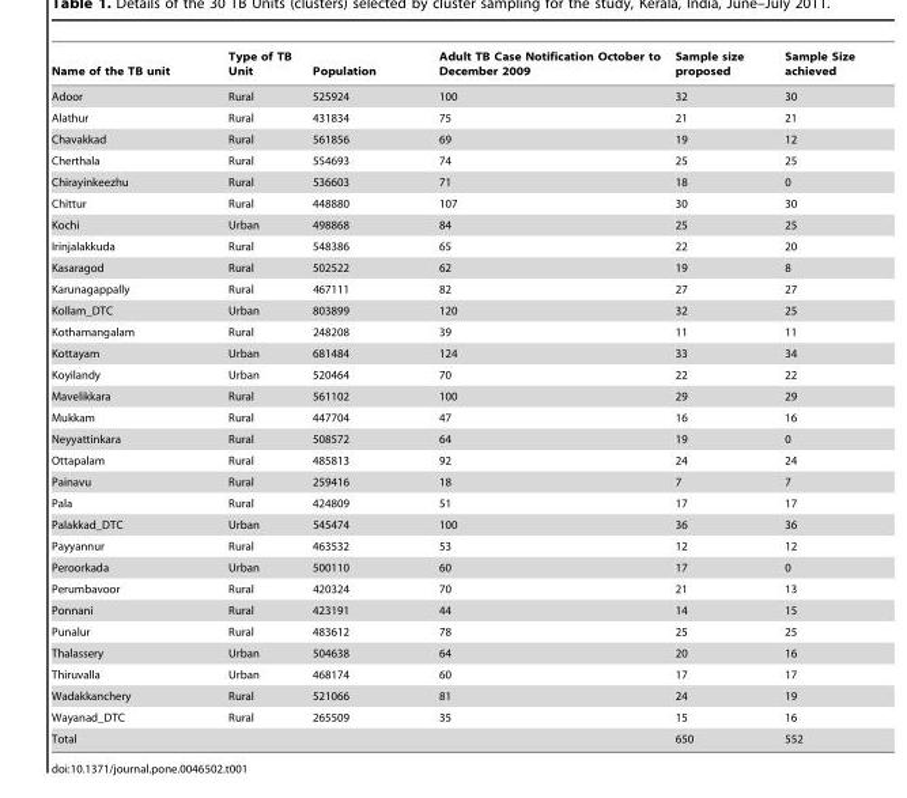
<table><thead><tr><td>Name of the TB unit</td><td>Type of TB Unit</td><td>Population</td><td>Adult TB Case Notification October to December 2009</td><td>Sample size proposed</td><td>Sample Size achieved</td></tr></thead><tbody><tr><td>Adoor</td><td>Rural</td><td>525924</td><td>100</td><td>32</td><td>30</td></tr><tr><td>Alathur</td><td>Rural</td><td>431834</td><td>75</td><td>21</td><td>21</td></tr><tr><td>Chavakkad</td><td>Rural</td><td>561856</td><td>69</td><td>19</td><td>12</td></tr><tr><td>Cherthala</td><td>Rural</td><td>554693</td><td>74</td><td>25</td><td>25</td></tr><tr><td>Chirayinkeezhu</td><td>Rural</td><td>536603</td><td>71</td><td>18</td><td>0</td></tr><tr><td>Chittur</td><td>Rural</td><td>448880</td><td>107</td><td>30</td><td>30</td></tr><tr><td>Kochi</td><td>Urban</td><td>498868</td><td>84</td><td>25</td><td>25</td></tr><tr><td>Irinjalakkuda</td><td>Rural</td><td>548386</td><td>65</td><td>22</td><td>20</td></tr><tr><td>Kasaragod</td><td>Rural</td><td>502522</td><td>62</td><td>19</td><td>8</td></tr><tr><td>Karunagappally</td><td>Rural</td><td>467111</td><td>82</td><td>27</td><td>27</td></tr><tr><td>Kollam_DTC</td><td>Urban</td><td>803899</td><td>120</td><td>32</td><td>25</td></tr><tr><td>Kothamangalam</td><td>Rural</td><td>248208</td><td>39</td><td>11</td><td>11</td></tr><tr><td>Kottayam</td><td>Urban</td><td>681484</td><td>124</td><td>33</td><td>34</td></tr><tr><td>Koyilandy</td><td>Urban</td><td>520464</td><td>70</td><td>22</td><td>22</td></tr><tr><td>Mavelikkara</td><td>Rural</td><td>561102</td><td>100</td><td>29</td><td>29</td></tr><tr><td>Mukkam</td><td>Rural</td><td>447704</td><td>47</td><td>16</td><td>16</td></tr><tr><td>Neyyattinkara</td><td>Rural</td><td>508572</td><td>64</td><td>19</td><td>0</td></tr><tr><td>Ottapalam</td><td>Rural</td><td>485813</td><td>92</td><td>24</td><td>24</td></tr><tr><td>Painavu</td><td>Rural</td><td>259416</td><td>18</td><td>7</td><td>7</td></tr><tr><td>Pala</td><td>Rural</td><td>424809</td><td>51</td><td>17</td><td>17</td></tr><tr><td>Palakkad_DTC</td><td>Urban</td><td>545474</td><td>100</td><td>36</td><td>36</td></tr><tr><td>Payyannur</td><td>Rural</td><td>463532</td><td>53</td><td>12</td><td>12</td></tr><tr><td>Peroorkada</td><td>Urban</td><td>500110</td><td>60</td><td>17</td><td>0</td></tr><tr><td>Perumbavoor</td><td>Rural</td><td>420324</td><td>70</td><td>21</td><td>13</td></tr><tr><td>Ponnani</td><td>Rural</td><td>423191</td><td>44</td><td>14</td><td>15</td></tr><tr><td>Punalur</td><td>Rural</td><td>483612</td><td>78</td><td>25</td><td>25</td></tr><tr><td>Thalassery</td><td>Urban</td><td>504638</td><td>64</td><td>20</td><td>16</td></tr><tr><td>Thiruvalla</td><td>Urban</td><td>468174</td><td>60</td><td>17</td><td>17</td></tr><tr><td>Wadakkanchery</td><td>Rural</td><td>521066</td><td>81</td><td>24</td><td>19</td></tr><tr><td>Wayanad_DTC</td><td>Rural</td><td>265509</td><td>35</td><td>15</td><td>16</td></tr><tr><td>Total</td><td></td><td></td><td></td><td>650</td><td>552</td></tr></tbody></table>